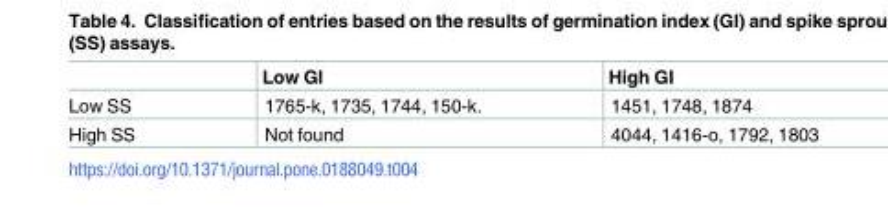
<table><thead><tr><td></td><td>Low GI</td><td>High GI</td></tr></thead><tbody><tr><td>Low SS</td><td>1765-k, 1735, 1744, 150-k.</td><td>1451, 1748, 1874</td></tr><tr><td>High SS</td><td>Not found</td><td>4044, 1416-o, 1792, 1803</td></tr></tbody></table>